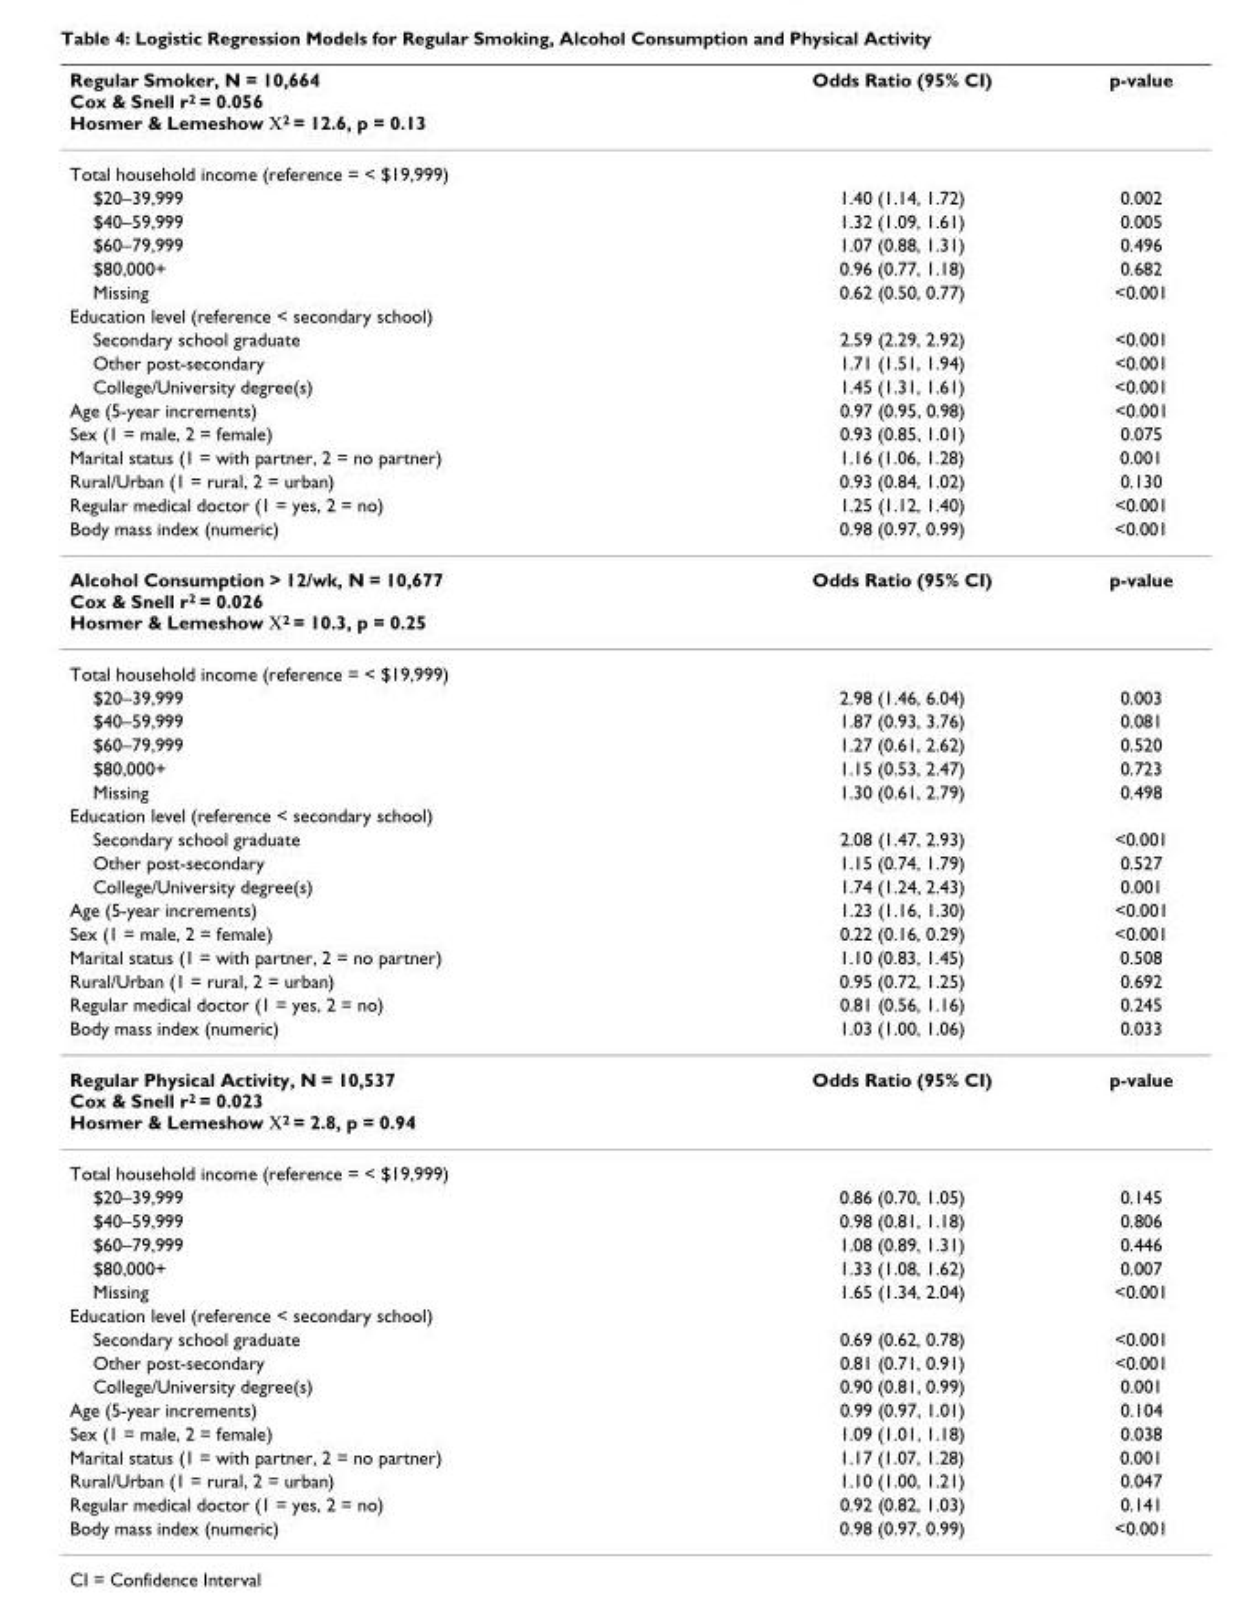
<table><thead><tr><td>Regular Smoker, N = 10,664 Cox &amp; Snell r2 = 0.056 Hosmer &amp; Lemeshow Χ2 = 12.6, p = 0.13</td><td>Odds Ratio (95% CI)</td><td>p-value</td></tr></thead><tbody><tr><td colspan="3">Total household income (reference = &lt; $19,999)</td></tr><tr><td>$20–39,999</td><td>1.40 (1.14, 1.72)</td><td>0.002</td></tr><tr><td>$40–59,999</td><td>1.32 (1.09, 1.61)</td><td>0.005</td></tr><tr><td>$60–79,999</td><td>1.07 (0.88, 1.31)</td><td>0.496</td></tr><tr><td>$80,000+</td><td>0.96 (0.77, 1.18)</td><td>0.682</td></tr><tr><td>Missing</td><td>0.62 (0.50, 0.77)</td><td>&lt;0.001</td></tr><tr><td colspan="3">Education level (reference &lt; secondary school)</td></tr><tr><td>Secondary school graduate</td><td>2.59 (2.29, 2.92)</td><td>&lt;0.001</td></tr><tr><td>Other post-secondary</td><td>1.71 (1.51, 1.94)</td><td>&lt;0.001</td></tr><tr><td>College/University degree(s)</td><td>1.45 (1.31, 1.61)</td><td>&lt;0.001</td></tr><tr><td>Age (5-year increments)</td><td>0.97 (0.95, 0.98)</td><td>&lt;0.001</td></tr><tr><td>Sex (1 = male, 2 = female)</td><td>0.93 (0.85, 1.01)</td><td>0.075</td></tr><tr><td>Marital status (1 = with partner, 2 = no partner)</td><td>1.16 (1.06, 1.28)</td><td>0.001</td></tr><tr><td>Rural/Urban (1 = rural, 2 = urban)</td><td>0.93 (0.84, 1.02)</td><td>0.130</td></tr><tr><td>Regular medical doctor (1 = yes, 2 = no)</td><td>1.25 (1.12, 1.40)</td><td>&lt;0.001</td></tr><tr><td>Body mass index (numeric)</td><td>0.98 (0.97, 0.99)</td><td>&lt;0.001</td></tr><tr><td>Alcohol Consumption &gt; 12/wk, N = 10,677 Cox &amp; Snell r2 = 0.026 Hosmer &amp; Lemeshow Χ2 = 10.3, p = 0.25</td><td>Odds Ratio (95% CI)</td><td>p-value</td></tr><tr><td colspan="3">Total household income (reference = &lt; $19,999)</td></tr><tr><td>$20–39,999</td><td>2.98 (1.46, 6.04)</td><td>0.003</td></tr><tr><td>$40–59,999</td><td>1.87 (0.93, 3.76)</td><td>0.081</td></tr><tr><td>$60–79,999</td><td>1.27 (0.61, 2.62)</td><td>0.520</td></tr><tr><td>$80,000+</td><td>1.15 (0.53, 2.47)</td><td>0.723</td></tr><tr><td>Missing</td><td>1.30 (0.61, 2.79)</td><td>0.498</td></tr><tr><td colspan="3">Education level (reference &lt; secondary school)</td></tr><tr><td>Secondary school graduate</td><td>2.08 (1.47, 2.93)</td><td>&lt;0.001</td></tr><tr><td>Other post-secondary</td><td>1.15 (0.74, 1.79)</td><td>0.527</td></tr><tr><td>College/University degree(s)</td><td>1.74 (1.24, 2.43)</td><td>0.001</td></tr><tr><td>Age (5-year increments)</td><td>1.23 (1.16, 1.30)</td><td>&lt;0.001</td></tr><tr><td>Sex (1 = male, 2 = female)</td><td>0.22 (0.16, 0.29)</td><td>&lt;0.001</td></tr><tr><td>Marital status (1 = with partner, 2 = no partner)</td><td>1.10 (0.83, 1.45)</td><td>0.508</td></tr><tr><td>Rural/Urban (1 = rural, 2 = urban)</td><td>0.95 (0.72, 1.25)</td><td>0.692</td></tr><tr><td>Regular medical doctor (1 = yes, 2 = no)</td><td>0.81 (0.56, 1.16)</td><td>0.245</td></tr><tr><td>Body mass index (numeric)</td><td>1.03 (1.00, 1.06)</td><td>0.033</td></tr><tr><td>Regular Physical Activity, N = 10,537 Cox &amp; Snell r2 = 0.023 Hosmer &amp; Lemeshow Χ2 = 2.8, p = 0.94</td><td>Odds Ratio (95% CI)</td><td>p-value</td></tr><tr><td colspan="3">Total household income (reference = &lt; $19,999)</td></tr><tr><td>$20–39,999</td><td>0.86 (0.70, 1.05)</td><td>0.145</td></tr><tr><td>$40–59,999</td><td>0.98 (0.81, 1.18)</td><td>0.806</td></tr><tr><td>$60–79,999</td><td>1.08 (0.89, 1.31)</td><td>0.446</td></tr><tr><td>$80,000+</td><td>1.33 (1.08, 1.62)</td><td>0.007</td></tr><tr><td>Missing</td><td>1.65 (1.34, 2.04)</td><td>&lt;0.001</td></tr><tr><td colspan="3">Education level (reference &lt; secondary school)</td></tr><tr><td>Secondary school graduate</td><td>0.69 (0.62, 0.78)</td><td>&lt;0.001</td></tr><tr><td>Other post-secondary</td><td>0.81 (0.71, 0.91)</td><td>&lt;0.001</td></tr><tr><td>College/University degree(s)</td><td>0.90 (0.81, 0.99)</td><td>0.001</td></tr><tr><td>Age (5-year increments)</td><td>0.99 (0.97, 1.01)</td><td>0.104</td></tr><tr><td>Sex (1 = male, 2 = female)</td><td>1.09 (1.01, 1.18)</td><td>0.038</td></tr><tr><td>Marital status (1 = with partner, 2 = no partner)</td><td>1.17 (1.07, 1.28)</td><td>0.001</td></tr><tr><td>Rural/Urban (1 = rural, 2 = urban)</td><td>1.10 (1.00, 1.21)</td><td>0.047</td></tr><tr><td>Regular medical doctor (1 = yes, 2 = no)</td><td>0.92 (0.82, 1.03)</td><td>0.141</td></tr><tr><td>Body mass index (numeric)</td><td>0.98 (0.97, 0.99)</td><td>&lt;0.001</td></tr></tbody></table>